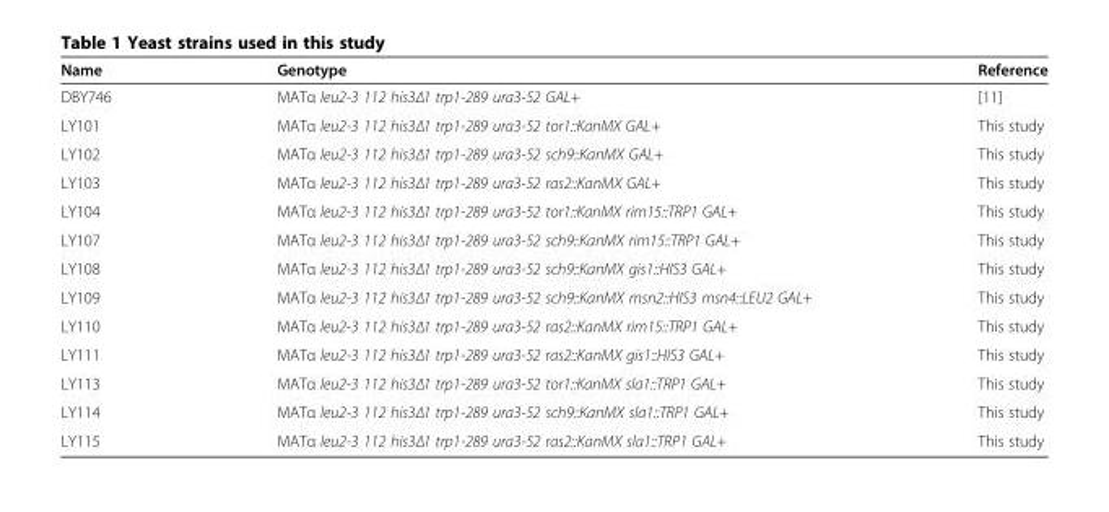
<table><thead><tr><td>Name</td><td>Genotype</td><td>Reference</td></tr></thead><tbody><tr><td>DBY746</td><td>MATα leu2-3 112 his3Δ1 trp1-289 ura3-52 GAL+</td><td>[11]</td></tr><tr><td>LY101</td><td>MATα leu2-3 112 his3Δ1 trp1-289 ura3-52 tor1::KanMX GAL+</td><td>This study</td></tr><tr><td>LY102</td><td>MATα leu2-3 112 his3Δ1 trp1-289 ura3-52 sch9::KanMX GAL+</td><td>This study</td></tr><tr><td>LY103</td><td>MATα leu2-3 112 his3Δ1 trp1-289 ura3-52 ras2::KanMX GAL+</td><td>This study</td></tr><tr><td>LY104</td><td>MATα leu2-3 112 his3Δ1 trp1-289 ura3-52 tor1::KanMX rim15::TRP1 GAL+</td><td>This study</td></tr><tr><td>LY107</td><td>MATα leu2-3 112 his3Δ1 trp1-289 ura3-52 sch9::KanMX rim15::TRP1 GAL+</td><td>This study</td></tr><tr><td>LY108</td><td>MATα leu2-3 112 his3Δ1 trp1-289 ura3-52 sch9::KanMX gis1::HIS3 GAL+</td><td>This study</td></tr><tr><td>LY109</td><td>MATα leu2-3 112 his3Δ1 trp1-289 ura3-52 sch9::KanMX msn2::HIS3 msn4::LEU2 GAL+</td><td>This study</td></tr><tr><td>LY110</td><td>MATα leu2-3 112 his3Δ1 trp1-289 ura3-52 ras2::KanMX rim15::TRP1 GAL+</td><td>This study</td></tr><tr><td>LY111</td><td>MATα leu2-3 112 his3Δ1 trp1-289 ura3-52 ras2::KanMX gis1::HIS3 GAL+</td><td>This study</td></tr><tr><td>LY113</td><td>MATα leu2-3 112 his3Δ1 trp1-289 ura3-52 tor1::KanMX sla1::TRP1 GAL+</td><td>This study</td></tr><tr><td>LY114</td><td>MATα leu2-3 112 his3Δ1 trp1-289 ura3-52 sch9::KanMX sla1::TRP1 GAL+</td><td>This study</td></tr><tr><td>LY115</td><td>MATα leu2-3 112 his3Δ1 trp1-289 ura3-52 ras2::KanMX sla1::TRP1 GAL+</td><td>This study</td></tr></tbody></table>